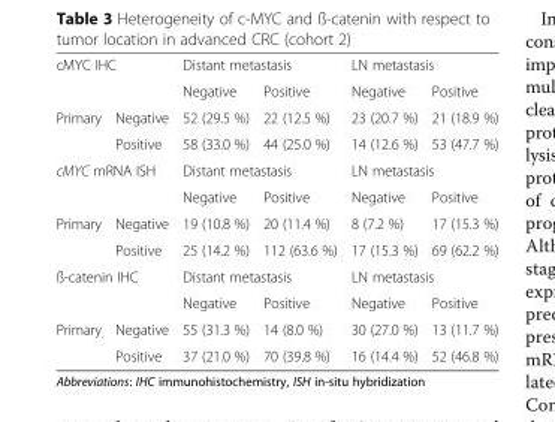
<table><tbody><tr><td rowspan="2" colspan="2">cMYC IHC</td><td colspan="2">Distant metastasis</td><td colspan="2">LN metastasis</td></tr><tr><td>Negative</td><td>Positive</td><td>Negative</td><td>Positive</td></tr><tr><td rowspan="2">Primary</td><td>Negative</td><td>52 (29.5 %)</td><td>22 (12.5 %)</td><td>23 (20.7 %)</td><td>21 (18.9 %)</td></tr><tr><td>Positive</td><td>58 (33.0 %)</td><td>44 (25.0 %)</td><td>14 (12.6 %)</td><td>53 (47.7 %)</td></tr><tr><td rowspan="2" colspan="2">cMYC mRNA ISH</td><td colspan="2">Distant metastasis</td><td colspan="2">LN metastasis</td></tr><tr><td>Negative</td><td>Positive</td><td>Negative</td><td>Positive</td></tr><tr><td rowspan="2">Primary</td><td>Negative</td><td>19 (10.8 %)</td><td>20 (11.4 %)</td><td>8 (7.2 %)</td><td>17 (15.3 %)</td></tr><tr><td>Positive</td><td>25 (14.2 %)</td><td>112 (63.6 %)</td><td>17 (15.3 %)</td><td>69 (62.2 %)</td></tr><tr><td rowspan="2" colspan="2">ß-catenin IHC</td><td colspan="2">Distant metastasis</td><td colspan="2">LN metastasis</td></tr><tr><td>Negative</td><td>Positive</td><td>Negative</td><td>Positive</td></tr><tr><td rowspan="2">Primary</td><td>Negative</td><td>55 (31.3 %)</td><td>14 (8.0 %)</td><td>30 (27.0 %)</td><td>13 (11.7 %)</td></tr><tr><td>Positive</td><td>37 (21.0 %)</td><td>70 (39.8 %)</td><td>16 (14.4 %)</td><td>52 (46.8 %)</td></tr></tbody></table>